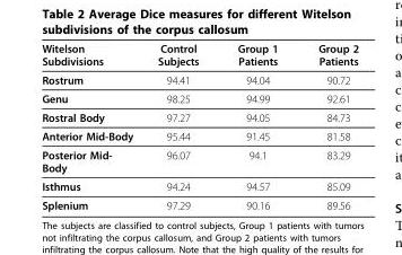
<table><thead><tr><td>Witelson Subdivisions</td><td>Control Subjects</td><td>Group 1 Patients</td><td>Group 2 Patients</td></tr></thead><tbody><tr><td>Rostrum</td><td>94.41</td><td>94.04</td><td>90.72</td></tr><tr><td>Genu</td><td>98.25</td><td>94.99</td><td>92.61</td></tr><tr><td>Rostral Body</td><td>97.27</td><td>94.05</td><td>84.73</td></tr><tr><td>Anterior Mid-Body</td><td>95.44</td><td>91.45</td><td>81.58</td></tr><tr><td>Posterior Mid- Body</td><td>96.07</td><td>94.1</td><td>83.29</td></tr><tr><td>Isthmus</td><td>94.24</td><td>94.57</td><td>85.09</td></tr><tr><td>Splenium</td><td>97.29</td><td>90.16</td><td>89.56</td></tr></tbody></table>